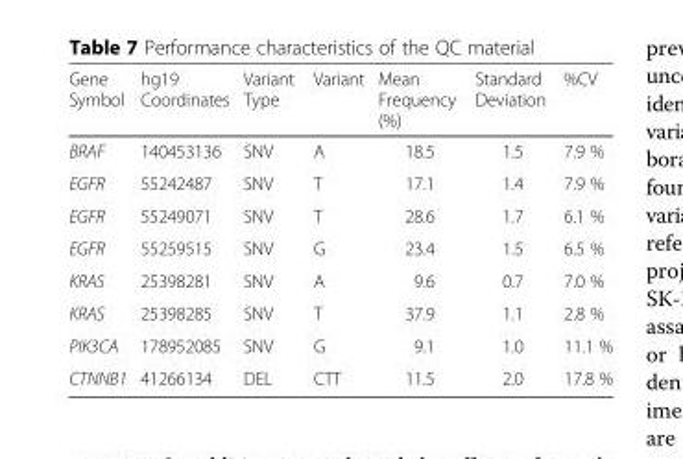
<table><thead><tr><td>Gene Symbol</td><td>hg19 Coordinates</td><td>Variant Type</td><td>Variant</td><td>Mean Frequency (%)</td><td>Standard Deviation</td><td>%CV</td></tr></thead><tbody><tr><td>BRAF</td><td>140453136</td><td>SNV</td><td>A</td><td>18.5</td><td>1.5</td><td>7.9 %</td></tr><tr><td>EGFR</td><td>55242487</td><td>SNV</td><td>T</td><td>17.1</td><td>1.4</td><td>7.9 %</td></tr><tr><td>EGFR</td><td>55249071</td><td>SNV</td><td>T</td><td>28.6</td><td>1.7</td><td>6.1 %</td></tr><tr><td>EGFR</td><td>55259515</td><td>SNV</td><td>G</td><td>23.4</td><td>1.5</td><td>6.5 %</td></tr><tr><td>KRAS</td><td>25398281</td><td>SNV</td><td>A</td><td>9.6</td><td>0.7</td><td>7.0 %</td></tr><tr><td>KRAS</td><td>25398285</td><td>SNV</td><td>T</td><td>37.9</td><td>1.1</td><td>2.8 %</td></tr><tr><td>PIK3CA</td><td>178952085</td><td>SNV</td><td>G</td><td>9.1</td><td>1.0</td><td>11.1 %</td></tr><tr><td>CTNNB1</td><td>41266134</td><td>DEL</td><td>CTT</td><td>11.5</td><td>2.0</td><td>17.8 %</td></tr></tbody></table>